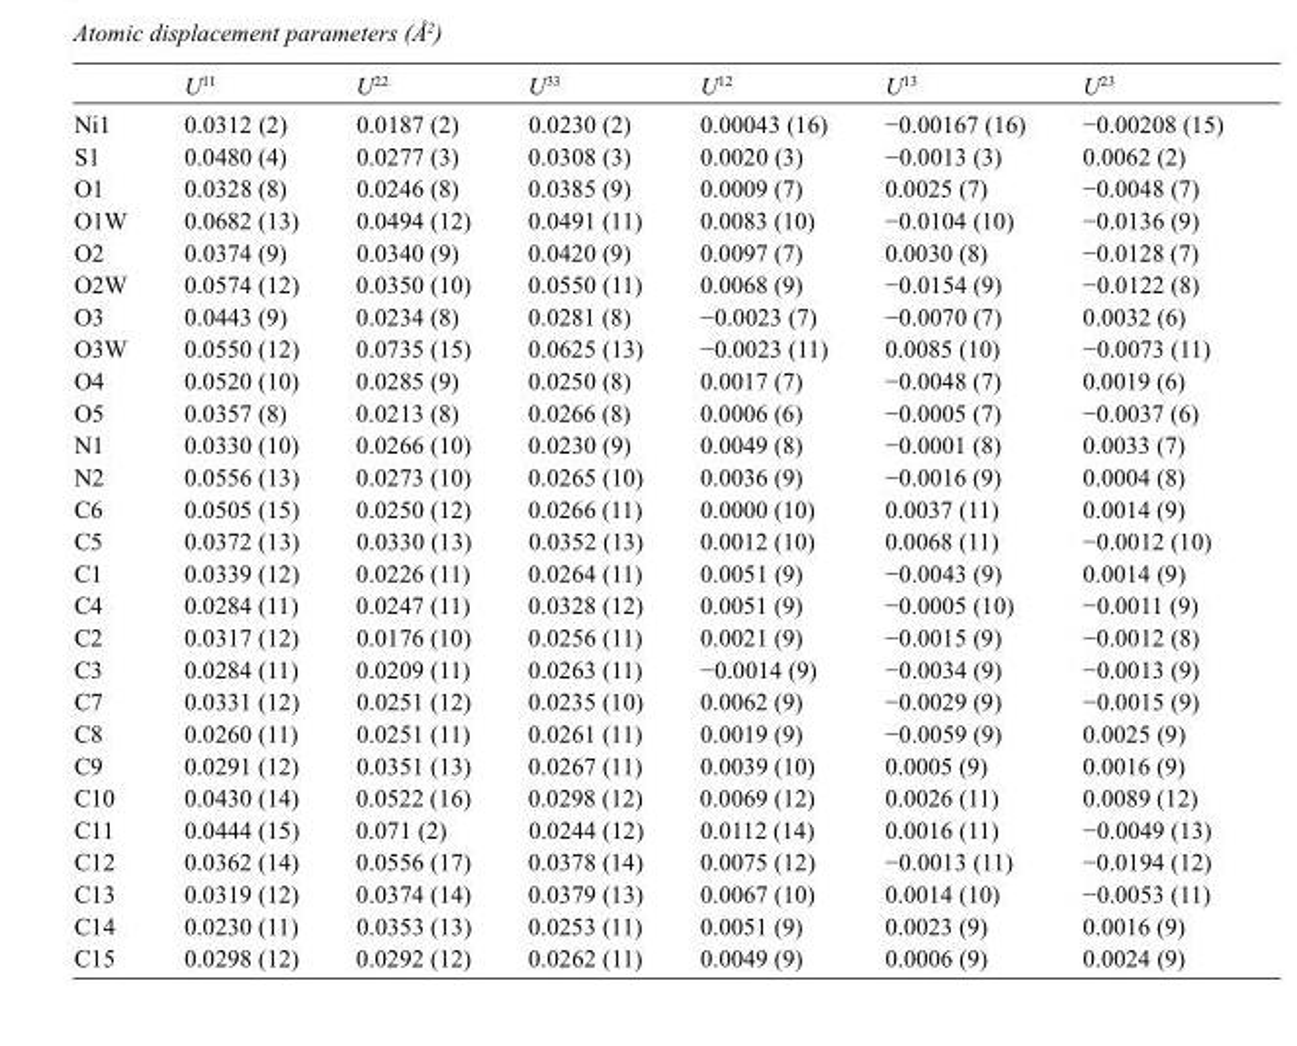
<table><thead><tr><td></td><td>U<sup>11</sup></td><td>U<sup>22</sup></td><td>U<sup>33</sup></td><td>U<sup>12</sup></td><td>U<sup>13</sup></td><td>U<sup>23</sup></td></tr></thead><tbody><tr><td>Ni1</td><td>0.0312 (2)</td><td>0.0187 (2)</td><td>0.0230 (2)</td><td>0.00043 (16)</td><td>−0.00167 (16)</td><td>−0.00208 (15)</td></tr><tr><td>S1</td><td>0.0480 (4)</td><td>0.0277 (3)</td><td>0.0308 (3)</td><td>0.0020 (3)</td><td>−0.0013 (3)</td><td>0.0062 (2)</td></tr><tr><td>O1</td><td>0.0328 (8)</td><td>0.0246 (8)</td><td>0.0385 (9)</td><td>0.0009 (7)</td><td>0.0025 (7)</td><td>−0.0048 (7)</td></tr><tr><td>O1W</td><td>0.0682 (13)</td><td>0.0494 (12)</td><td>0.0491 (11)</td><td>0.0083 (10)</td><td>−0.0104 (10)</td><td>−0.0136 (9)</td></tr><tr><td>O2</td><td>0.0374 (9)</td><td>0.0340 (9)</td><td>0.0420 (9)</td><td>0.0097 (7)</td><td>0.0030 (8)</td><td>−0.0128 (7)</td></tr><tr><td>O2W</td><td>0.0574 (12)</td><td>0.0350 (10)</td><td>0.0550 (11)</td><td>0.0068 (9)</td><td>−0.0154 (9)</td><td>−0.0122 (8)</td></tr><tr><td>O3</td><td>0.0443 (9)</td><td>0.0234 (8)</td><td>0.0281 (8)</td><td>−0.0023 (7)</td><td>−0.0070 (7)</td><td>0.0032 (6)</td></tr><tr><td>O3W</td><td>0.0550 (12)</td><td>0.0735 (15)</td><td>0.0625 (13)</td><td>−0.0023 (11)</td><td>0.0085 (10)</td><td>−0.0073 (11)</td></tr><tr><td>O4</td><td>0.0520 (10)</td><td>0.0285 (9)</td><td>0.0250 (8)</td><td>0.0017 (7)</td><td>−0.0048 (7)</td><td>0.0019 (6)</td></tr><tr><td>O5</td><td>0.0357 (8)</td><td>0.0213 (8)</td><td>0.0266 (8)</td><td>0.0006 (6)</td><td>−0.0005 (7)</td><td>−0.0037 (6)</td></tr><tr><td>N1</td><td>0.0330 (10)</td><td>0.0266 (10)</td><td>0.0230 (9)</td><td>0.0049 (8)</td><td>−0.0001 (8)</td><td>0.0033 (7)</td></tr><tr><td>N2</td><td>0.0556 (13)</td><td>0.0273 (10)</td><td>0.0265 (10)</td><td>0.0036 (9)</td><td>−0.0016 (9)</td><td>0.0004 (8)</td></tr><tr><td>C6</td><td>0.0505 (15)</td><td>0.0250 (12)</td><td>0.0266 (11)</td><td>0.0000 (10)</td><td>0.0037 (11)</td><td>0.0014 (9)</td></tr><tr><td>C5</td><td>0.0372 (13)</td><td>0.0330 (13)</td><td>0.0352 (13)</td><td>0.0012 (10)</td><td>0.0068 (11)</td><td>−0.0012 (10)</td></tr><tr><td>C1</td><td>0.0339 (12)</td><td>0.0226 (11)</td><td>0.0264 (11)</td><td>0.0051 (9)</td><td>−0.0043 (9)</td><td>0.0014 (9)</td></tr><tr><td>C4</td><td>0.0284 (11)</td><td>0.0247 (11)</td><td>0.0328 (12)</td><td>0.0051 (9)</td><td>−0.0005 (10)</td><td>−0.0011 (9)</td></tr><tr><td>C2</td><td>0.0317 (12)</td><td>0.0176 (10)</td><td>0.0256 (11)</td><td>0.0021 (9)</td><td>−0.0015 (9)</td><td>−0.0012 (8)</td></tr><tr><td>C3</td><td>0.0284 (11)</td><td>0.0209 (11)</td><td>0.0263 (11)</td><td>−0.0014 (9)</td><td>−0.0034 (9)</td><td>−0.0013 (9)</td></tr><tr><td>C7</td><td>0.0331 (12)</td><td>0.0251 (12)</td><td>0.0235 (10)</td><td>0.0062 (9)</td><td>−0.0029 (9)</td><td>−0.0015 (9)</td></tr><tr><td>C8</td><td>0.0260 (11)</td><td>0.0251 (11)</td><td>0.0261 (11)</td><td>0.0019 (9)</td><td>−0.0059 (9)</td><td>0.0025 (9)</td></tr><tr><td>C9</td><td>0.0291 (12)</td><td>0.0351 (13)</td><td>0.0267 (11)</td><td>0.0039 (10)</td><td>0.0005 (9)</td><td>0.0016 (9)</td></tr><tr><td>C10</td><td>0.0430 (14)</td><td>0.0522 (16)</td><td>0.0298 (12)</td><td>0.0069 (12)</td><td>0.0026 (11)</td><td>0.0089 (12)</td></tr><tr><td>C11</td><td>0.0444 (15)</td><td>0.071 (2)</td><td>0.0244 (12)</td><td>0.0112 (14)</td><td>0.0016 (11)</td><td>−0.0049 (13)</td></tr><tr><td>C12</td><td>0.0362 (14)</td><td>0.0556 (17)</td><td>0.0378 (14)</td><td>0.0075 (12)</td><td>−0.0013 (11)</td><td>−0.0194 (12)</td></tr><tr><td>C13</td><td>0.0319 (12)</td><td>0.0374 (14)</td><td>0.0379 (13)</td><td>0.0067 (10)</td><td>0.0014 (10)</td><td>−0.0053 (11)</td></tr><tr><td>C14</td><td>0.0230 (11)</td><td>0.0353 (13)</td><td>0.0253 (11)</td><td>0.0051 (9)</td><td>0.0023 (9)</td><td>0.0016 (9)</td></tr><tr><td>C15</td><td>0.0298 (12)</td><td>0.0292 (12)</td><td>0.0262 (11)</td><td>0.0049 (9)</td><td>0.0006 (9)</td><td>0.0024 (9)</td></tr></tbody></table>